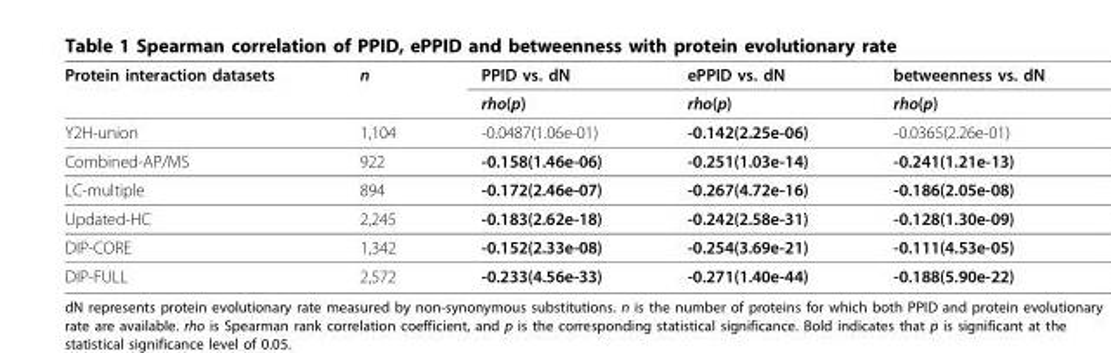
<table><thead><tr><td rowspan="2">Protein interaction datasets</td><td rowspan="2">n</td><td rowspan="2">PPID vs. dN rho(p)</td><td rowspan="2">ePPID vs. dN rho(p)</td><td rowspan="2">betweenness vs. dN rho(p)</td></tr><tr></tr></thead><tbody><tr><td>Y2H-union</td><td>1,104</td><td>-0.0487(1.06e-01)</td><td>-0.142(2.25e-06)</td><td>-0.0365(2.26e-01)</td></tr><tr><td>Combined-AP/MS</td><td>922</td><td>-0.158(1.46e-06)</td><td>-0.251(1.03e-14)</td><td>-0.241(1.21e-13)</td></tr><tr><td>LC-multiple</td><td>894</td><td>-0.172(2.46e-07)</td><td>-0.267(4.72e-16)</td><td>-0.186(2.05e-08)</td></tr><tr><td>Updated-HC</td><td>2,245</td><td>-0.183(2.62e-18)</td><td>-0.242(2.58e-31)</td><td>-0.128(1.30e-09)</td></tr><tr><td>DIP-CORE</td><td>1,342</td><td>-0.152(2.33e-08)</td><td>-0.254(3.69e-21)</td><td>-0.111(4.53e-05)</td></tr><tr><td>DIP-FULL</td><td>2,572</td><td>-0.233(4.56e-33)</td><td>-0.271(1.40e-44)</td><td>-0.188(5.90e-22)</td></tr></tbody></table>